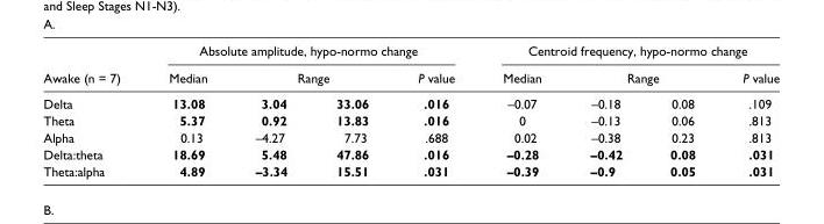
<table><thead><tr><td rowspan="3">Awake (n = 7) Delta</td><td colspan="4">Absolute amplitude, hypo-normo change</td><td colspan="4">Centroid frequency, hypo-normo change</td></tr><tr><td rowspan="2">Median 13.08</td><td colspan="2">Range</td><td rowspan="2">P value .016</td><td rowspan="2">Median –0.07</td><td colspan="2">Range</td><td rowspan="2">P value .109</td></tr><tr><td>3.04</td><td>33.06</td><td>–0.18</td><td>0.08</td></tr></thead><tbody><tr><td>Theta</td><td>5.37</td><td>0.92</td><td>13.83</td><td>.016</td><td>0</td><td>–0.13</td><td>0.06</td><td>.813</td></tr><tr><td>Alpha</td><td>0.13</td><td>–4.27</td><td>7.73</td><td>.688</td><td>0.02</td><td>–0.38</td><td>0.23</td><td>.813</td></tr><tr><td>Delta:theta</td><td>18.69</td><td>5.48</td><td>47.86</td><td>.016</td><td>–0.28</td><td>–0.42</td><td>0.08</td><td>.031</td></tr><tr><td>Theta:alpha</td><td>4.89</td><td>–3.34</td><td>15.51</td><td>.031</td><td>–0.39</td><td>–0.9</td><td>0.05</td><td>.031</td></tr></tbody></table>